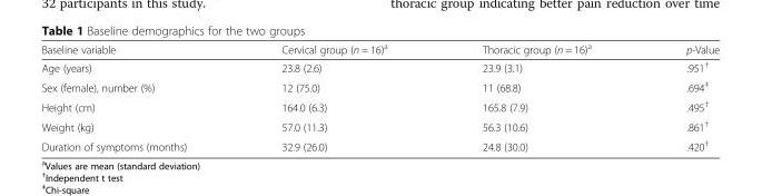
<table><thead><tr><td>Baseline variable</td><td>Cervical group (n = 16)<sup>a</sup></td><td>Thoracic group (n = 16)<sup>a</sup></td><td>p-Value</td></tr></thead><tbody><tr><td>Age (years)</td><td>23.8 (2.6)</td><td>23.9 (3.1)</td><td>.951<sup>†</sup></td></tr><tr><td>Sex (female), number (%)</td><td>12 (75.0)</td><td>11 (68.8)</td><td>.694<sup>‡</sup></td></tr><tr><td>Height (cm)</td><td>164.0 (6.3)</td><td>165.8 (7.9)</td><td>.495<sup>†</sup></td></tr><tr><td>Weight (kg)</td><td>57.0 (11.3)</td><td>56.3 (10.6)</td><td>.861<sup>†</sup></td></tr><tr><td>Duration of symptoms (months)</td><td>32.9 (26.0)</td><td>24.8 (30.0)</td><td>.420<sup>†</sup></td></tr></tbody></table>